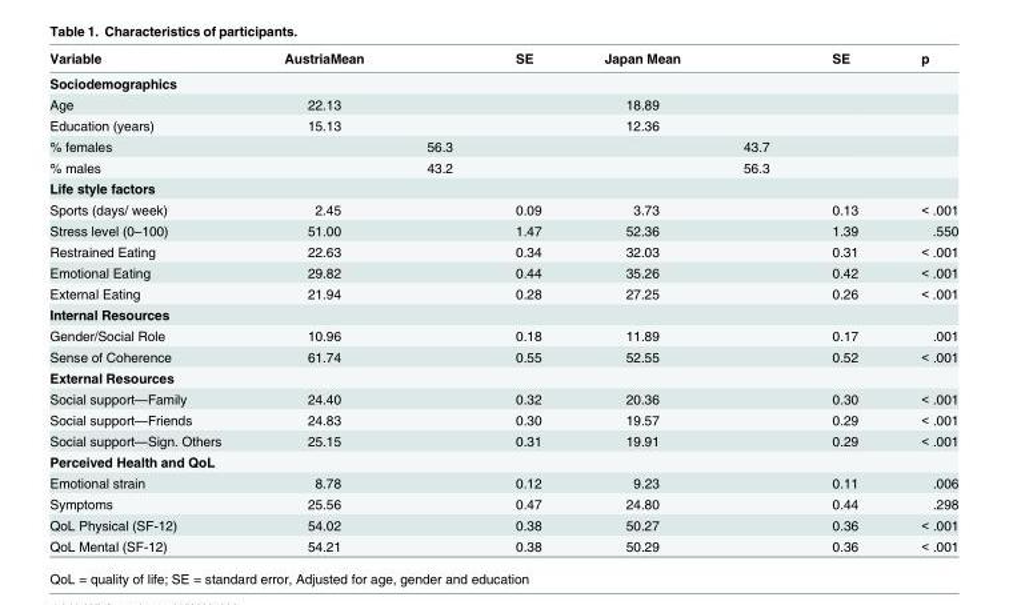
<table><thead><tr><td>Variable</td><td>AustriaMean</td><td></td><td>SE</td><td>Japan Mean</td><td></td><td>SE</td><td>p</td></tr></thead><tbody><tr><td colspan="8">Sociodemographics</td></tr><tr><td>Age</td><td>22.13</td><td></td><td></td><td>18.89</td><td></td><td></td><td></td></tr><tr><td>Education (years)</td><td>15.13</td><td></td><td></td><td>12.36</td><td></td><td></td><td></td></tr><tr><td>% females</td><td></td><td>56.3</td><td></td><td></td><td>43.7</td><td></td><td></td></tr><tr><td>% males</td><td></td><td>43.2</td><td></td><td></td><td>56.3</td><td></td><td></td></tr><tr><td colspan="8">Life style factors</td></tr><tr><td>Sports (days/ week)</td><td>2.45</td><td></td><td>0.09</td><td>3.73</td><td></td><td>0.13</td><td>&lt; .001</td></tr><tr><td>Stress level (0–100)</td><td>51.00</td><td></td><td>1.47</td><td>52.36</td><td></td><td>1.39</td><td>.550</td></tr><tr><td>Restrained Eating</td><td>22.63</td><td></td><td>0.34</td><td>32.03</td><td></td><td>0.31</td><td>&lt; .001</td></tr><tr><td>Emotional Eating</td><td>29.82</td><td></td><td>0.44</td><td>35.26</td><td></td><td>0.42</td><td>&lt; .001</td></tr><tr><td>External Eating</td><td>21.94</td><td></td><td>0.28</td><td>27.25</td><td></td><td>0.26</td><td>&lt; .001</td></tr><tr><td colspan="8">Internal Resources</td></tr><tr><td>Gender/Social Role</td><td>10.96</td><td></td><td>0.18</td><td>11.89</td><td></td><td>0.17</td><td>.001</td></tr><tr><td>Sense of Coherence</td><td>61.74</td><td></td><td>0.55</td><td>52.55</td><td></td><td>0.52</td><td>&lt; .001</td></tr><tr><td colspan="8">External Resources</td></tr><tr><td>Social support—Family</td><td>24.40</td><td></td><td>0.32</td><td>20.36</td><td></td><td>0.30</td><td>&lt; .001</td></tr><tr><td>Social support—Friends</td><td>24.83</td><td></td><td>0.30</td><td>19.57</td><td></td><td>0.29</td><td>&lt; .001</td></tr><tr><td>Social support—Sign. Others</td><td>25.15</td><td></td><td>0.31</td><td>19.91</td><td></td><td>0.29</td><td>&lt; .001</td></tr><tr><td colspan="8">Perceived Health and QoL</td></tr><tr><td>Emotional strain</td><td>8.78</td><td></td><td>0.12</td><td>9.23</td><td></td><td>0.11</td><td>.006</td></tr><tr><td>Symptoms</td><td>25.56</td><td></td><td>0.47</td><td>24.80</td><td></td><td>0.44</td><td>.298</td></tr><tr><td>QoL Physical (SF-12)</td><td>54.02</td><td></td><td>0.38</td><td>50.27</td><td></td><td>0.36</td><td>&lt; .001</td></tr><tr><td>QoL Mental (SF-12)</td><td>54.21</td><td></td><td>0.38</td><td>50.29</td><td></td><td>0.36</td><td>&lt; .001</td></tr></tbody></table>